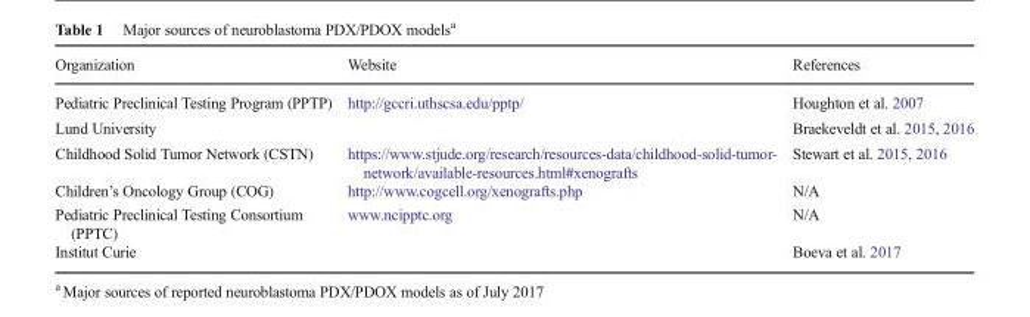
<table><thead><tr><td>Organization</td><td>Website</td><td>References</td></tr></thead><tbody><tr><td>Pediatric Preclinical Testing Program (PPTP)</td><td>http://gccri.uthscsa.edu/pptp/</td><td>Houghton et al. 2007</td></tr><tr><td>Lund University</td><td></td><td>Braekeveldt et al. 2015, 2016</td></tr><tr><td>Childhood Solid Tumor Network (CSTN)</td><td>https://www.stjude.org/research/resources-data/childhood-solid-tumor- network/available-resources.html#xenografts</td><td>Stewart et al. 2015, 2016</td></tr><tr><td>Children’s Oncology Group (COG)</td><td>http://www.cogcell.org/xenografts.php</td><td>N/A</td></tr><tr><td>Pediatric Preclinical Testing Consortium (PPTC)</td><td>www.ncipptc.org</td><td>N/A</td></tr><tr><td>Institut Curie</td><td></td><td>Boeva et al. 2017</td></tr></tbody></table>